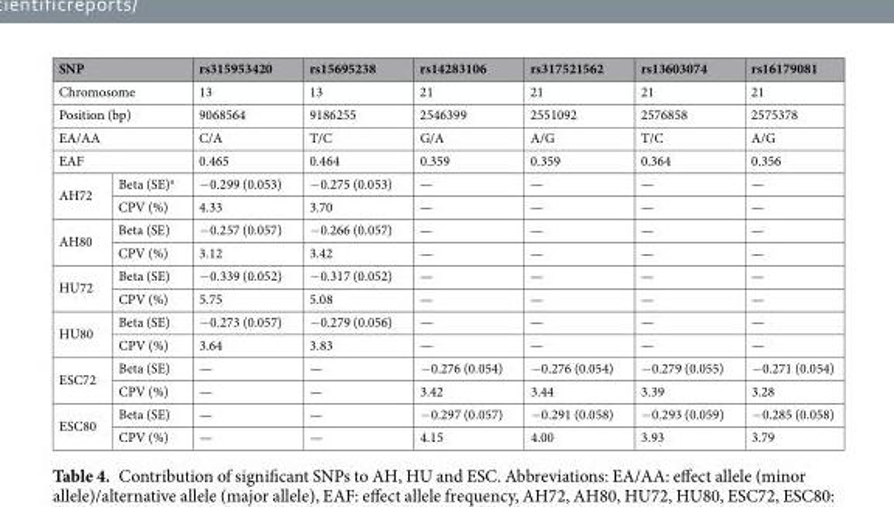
<table><thead><tr><td colspan="2">SNP</td><td>rs315953420</td><td>rs15695238</td><td>rs14283106</td><td>rs317521562</td><td>rs13603074</td><td>rs16179081</td></tr></thead><tbody><tr><td colspan="2">Chromosome</td><td>13</td><td>13</td><td>21</td><td>21</td><td>21</td><td>21</td></tr><tr><td colspan="2">Position (bp)</td><td>9068564</td><td>9186255</td><td>2546399</td><td>2551092</td><td>2576858</td><td>2575378</td></tr><tr><td colspan="2">EA/AA</td><td>C/A</td><td>T/C</td><td>G/A</td><td>A/G</td><td>T/C</td><td>A/G</td></tr><tr><td colspan="2">EAF</td><td>0.465</td><td>0.464</td><td>0.359</td><td>0.359</td><td>0.364</td><td>0.356</td></tr><tr><td rowspan="2">AH72</td><td>Beta (SE)<sup>a</sup></td><td>−0.299 (0.053)</td><td>−0.275 (0.053)</td><td>—</td><td>—</td><td>—</td><td>—</td></tr><tr><td>CPV (%)</td><td>4.33</td><td>3.70</td><td>—</td><td>—</td><td>—</td><td>—</td></tr><tr><td rowspan="2">AH80</td><td>Beta (SE)</td><td>−0.257 (0.057)</td><td>−0.266 (0.057)</td><td>—</td><td>—</td><td>—</td><td>—</td></tr><tr><td>CPV (%)</td><td>3.12</td><td>3.42</td><td>—</td><td>—</td><td>—</td><td>—</td></tr><tr><td rowspan="2">HU72</td><td>Beta (SE)</td><td>−0.339 (0.052)</td><td>−0.317 (0.052)</td><td>—</td><td>—</td><td>—</td><td>—</td></tr><tr><td>CPV (%)</td><td>5.75</td><td>5.08</td><td>—</td><td>—</td><td>—</td><td>—</td></tr><tr><td rowspan="2">HU80</td><td>Beta (SE)</td><td>−0.273 (0.057)</td><td>−0.279 (0.056)</td><td>—</td><td>—</td><td>—</td><td>—</td></tr><tr><td>CPV (%)</td><td>3.64</td><td>3.83</td><td>—</td><td>—</td><td>—</td><td>—</td></tr><tr><td rowspan="2">ESC72</td><td>Beta (SE)</td><td>—</td><td>—</td><td>−0.276 (0.054)</td><td>−0.276 (0.054)</td><td>−0.279 (0.055)</td><td>−0.271 (0.054)</td></tr><tr><td>CPV (%)</td><td>—</td><td>—</td><td>3.42</td><td>3.44</td><td>3.39</td><td>3.28</td></tr><tr><td rowspan="2">ESC80</td><td>Beta (SE)</td><td>—</td><td>—</td><td>−0.297 (0.057)</td><td>−0.291 (0.058)</td><td>−0.293 (0.059)</td><td>−0.285 (0.058)</td></tr><tr><td>CPV (%)</td><td>—</td><td>—</td><td>4.15</td><td>4.00</td><td>3.93</td><td>3.79</td></tr></tbody></table>